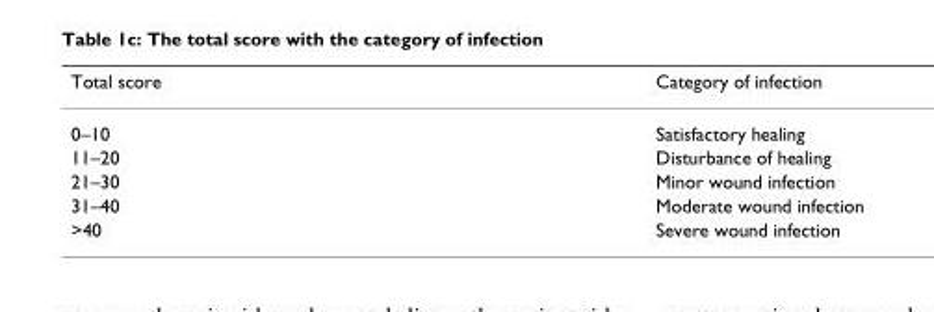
<table><thead><tr><td>Total score</td><td>Category of infection</td></tr></thead><tbody><tr><td>0–10</td><td>Satisfactory healing</td></tr><tr><td>11–20</td><td>Disturbance of healing</td></tr><tr><td>21–30</td><td>Minor wound infection</td></tr><tr><td>31–40</td><td>Moderate wound infection</td></tr><tr><td>&gt;40</td><td>Severe wound infection</td></tr></tbody></table>